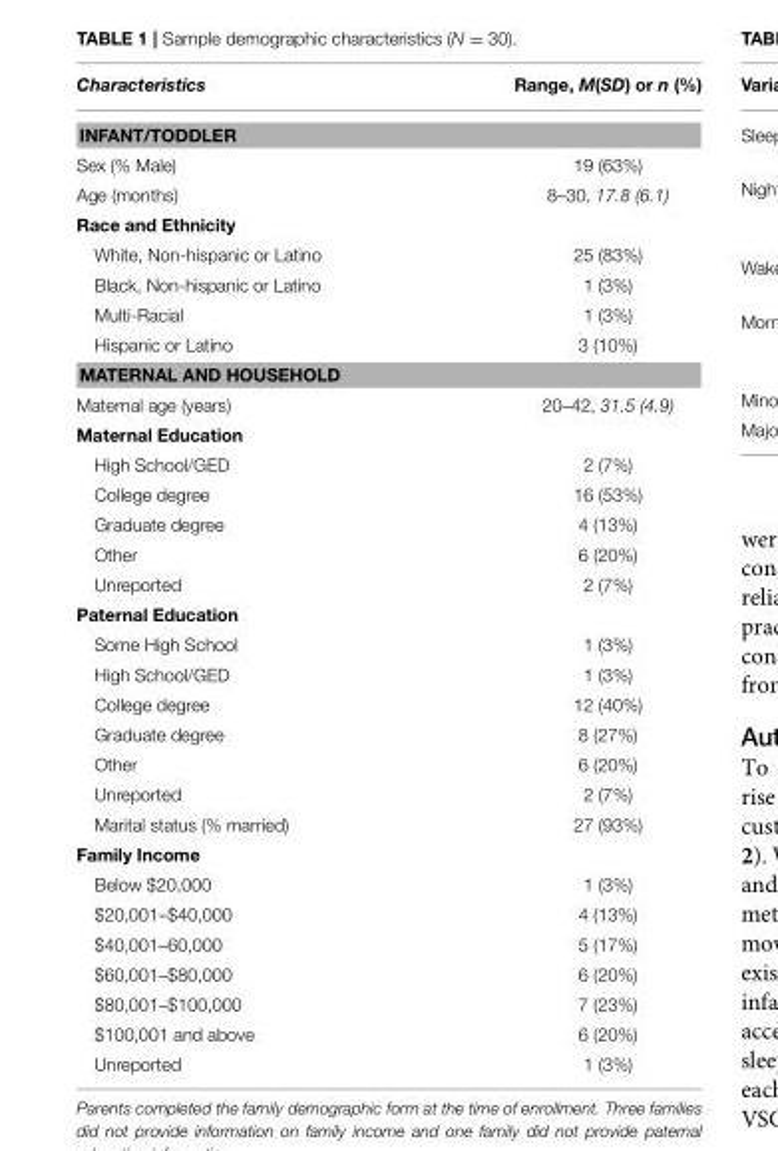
<table><thead><tr><td>Characteristics</td><td>Range, M(SD) or n (%)</td></tr></thead><tbody><tr><td colspan="2">INFANT/TODDLER</td></tr><tr><td>Sex (% Male)</td><td>19 (63%)</td></tr><tr><td>Age (months)</td><td>8–30, 17.8 (6.1)</td></tr><tr><td colspan="2">Race and Ethnicity</td></tr><tr><td>White, Non-hispanic or Latino</td><td>25 (83%)</td></tr><tr><td>Black, Non-hispanic or Latino</td><td>1 (3%)</td></tr><tr><td>Multi-Racial</td><td>1 (3%)</td></tr><tr><td>Hispanic or Latino</td><td>3 (10%)</td></tr><tr><td colspan="2">MATERNAL AND HOUSEHOLD</td></tr><tr><td>Maternal age (years)</td><td>20–42, 31.5 (4.9)</td></tr><tr><td colspan="2">Maternal Education</td></tr><tr><td>High School/GED</td><td>2 (7%)</td></tr><tr><td>College degree</td><td>16 (53%)</td></tr><tr><td>Graduate degree</td><td>4 (13%)</td></tr><tr><td>Other</td><td>6 (20%)</td></tr><tr><td>Unreported</td><td>2 (7%)</td></tr><tr><td colspan="2">Paternal Education</td></tr><tr><td>Some High School</td><td>1 (3%)</td></tr><tr><td>High School/GED</td><td>1 (3%)</td></tr><tr><td>College degree</td><td>12 (40%)</td></tr><tr><td>Graduate degree</td><td>8 (27%)</td></tr><tr><td>Other</td><td>6 (20%)</td></tr><tr><td>Unreported</td><td>2 (7%)</td></tr><tr><td>Marital status (% married)</td><td>27 (93%)</td></tr><tr><td colspan="2">Family Income</td></tr><tr><td>Below $20,000</td><td>1 (3%)</td></tr><tr><td>$20,001–$40,000</td><td>4 (13%)</td></tr><tr><td>$40,001–60,000</td><td>5 (17%)</td></tr><tr><td>$60,001–$80,000</td><td>6 (20%)</td></tr><tr><td>$80,001–$100,000</td><td>7 (23%)</td></tr><tr><td>$100,001 and above</td><td>6 (20%)</td></tr><tr><td>Unreported</td><td>1 (3%)</td></tr></tbody></table>